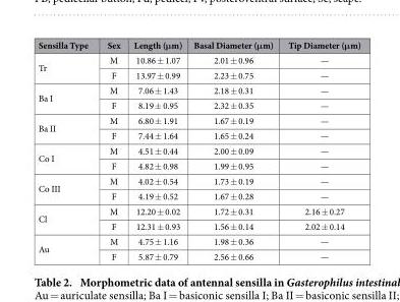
<table><thead><tr><td>Sensilla Type</td><td>Sex</td><td>Length (μm)</td><td>Basal Diameter (μm)</td><td>Tip Diameter (μm)</td></tr></thead><tbody><tr><td rowspan="2">Tr</td><td>M</td><td>10.86 ± 1.07</td><td>2.01 ± 0.96</td><td>—</td></tr><tr><td>F</td><td>13.97 ± 0.99</td><td>2.23 ± 0.75</td><td>—</td></tr><tr><td rowspan="2">Ba I</td><td>M</td><td>7.06 ± 1.43</td><td>2.18 ± 0.31</td><td>—</td></tr><tr><td>F</td><td>8.19 ± 0.95</td><td>2.32 ± 0.35</td><td>—</td></tr><tr><td rowspan="2">Ba II</td><td>M</td><td>6.80 ± 1.91</td><td>1.67 ± 0.19</td><td>—</td></tr><tr><td>F</td><td>7.44 ± 1.64</td><td>1.65 ± 0.24</td><td>—</td></tr><tr><td rowspan="2">Co I</td><td>M</td><td>4.51 ± 0.44</td><td>2.00 ± 0.09</td><td>—</td></tr><tr><td>F</td><td>4.82 ± 0.98</td><td>1.99 ± 0.95</td><td>—</td></tr><tr><td rowspan="2">Co III</td><td>M</td><td>4.02 ± 0.54</td><td>1.73 ± 0.19</td><td>—</td></tr><tr><td>F</td><td>4.19 ± 0.52</td><td>1.67 ± 0.28</td><td>—</td></tr><tr><td rowspan="2">Cl</td><td>M</td><td>12.20 ± 0.02</td><td>1.72 ± 0.31</td><td>2.16 ± 0.27</td></tr><tr><td>F</td><td>12.31 ± 0.93</td><td>1.56 ± 0.14</td><td>2.02 ± 0.14</td></tr><tr><td rowspan="2">Au</td><td>M</td><td>4.75 ± 1.16</td><td>1.98 ± 0.36</td><td>—</td></tr><tr><td>F</td><td>5.87 ± 0.79</td><td>2.56 ± 0.66</td><td>—</td></tr></tbody></table>